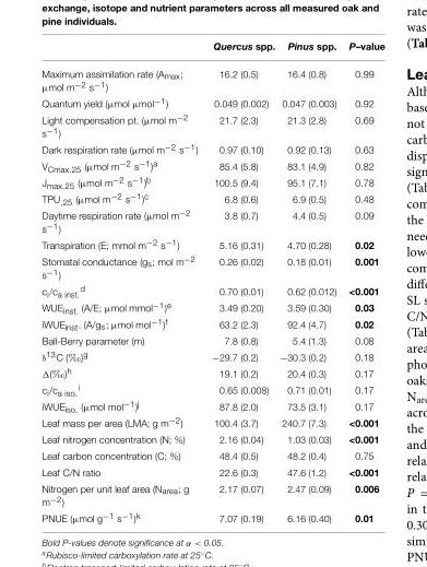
<table><thead><tr><td></td><td>Quercus spp.</td><td>Pinus spp.</td><td>P–value</td></tr></thead><tbody><tr><td>Maximum assimilation rate (A<sub>max</sub>; µmol m<sup>−2</sup> s<sup>−1</sup>)</td><td>16.2 (0.5)</td><td>16.4 (0.8)</td><td>0.99</td></tr><tr><td>Quantum yield (µmol µmol<sup>−1</sup>)</td><td>0.049 (0.002)</td><td>0.047 (0.003)</td><td>0.92</td></tr><tr><td>Light compensation pt. (µmol m<sup>−2</sup> s<sup>−1</sup>)</td><td>21.7 (2.3)</td><td>21.3 (2.8)</td><td>0.69</td></tr><tr><td>Dark respiration rate (µmol m<sup>−2</sup> s<sup>−1</sup>)</td><td>0.97 (0.10)</td><td>0.92 (0.13)</td><td>0.63</td></tr><tr><td>V<sub>Cmax,25</sub> (µmol m<sup>−2</sup> s<sup>−1</sup>)<sup>a</sup></td><td>85.4 (5.8)</td><td>83.1 (4.9)</td><td>0.82</td></tr><tr><td>J<sub>max,25</sub> (µmol m<sup>−2</sup> s<sup>−1</sup>)<sup>b</sup></td><td>100.5 (9.4)</td><td>95.1 (7.1)</td><td>0.78</td></tr><tr><td>TPU<sub>,25</sub> (µmol m<sup>−2</sup> s<sup>−1</sup>)<sup>c</sup></td><td>6.8 (0.6)</td><td>6.9 (0.5)</td><td>0.48</td></tr><tr><td>Daytime respiration rate (µmol m<sup>−2</sup> s<sup>−1</sup>)</td><td>3.8 (0.7)</td><td>4.4 (0.5)</td><td>0.09</td></tr><tr><td>Transpiration (E; mmol m<sup>−2</sup> s<sup>−1</sup>)</td><td>5.16 (0.31)</td><td>4.70 (0.28)</td><td>0.02</td></tr><tr><td>Stomatal conductance (g<sub>s</sub>; mol m<sup>−2</sup> s<sup>−1</sup>)</td><td>0.26 (0.02)</td><td>0.18 (0.01)</td><td>0.001</td></tr><tr><td>c<sub>i</sub>/c<sub>a inst.</sub><sup>d</sup></td><td>0.70 (0.01)</td><td>0.62 (0.012)</td><td>&lt;0.001</td></tr><tr><td>WUE<sub>inst.</sub> (A/E; µmol mmol<sup>−1</sup>)<sup>e</sup></td><td>3.49 (0.20)</td><td>3.59 (0.30)</td><td>0.03</td></tr><tr><td>iWUE<sub>inst</sub>. (A/g<sub>s</sub>; µmol mol<sup>−1</sup>)<sup>f</sup></td><td>63.2 (2.3)</td><td>92.4 (4.7)</td><td>0.02</td></tr><tr><td>Ball-Berry parameter (m)</td><td>7.8 (0.8)</td><td>5.4 (1.3)</td><td>0.08</td></tr><tr><td>δ<sup>13</sup>C (‰)<sup>g</sup></td><td>−29.7 (0.2)</td><td>−30.3 (0.2)</td><td>0.18</td></tr><tr><td>Δ(‰)<sup>h</sup></td><td>19.1 (0.2)</td><td>20.4 (0.3)</td><td>0.17</td></tr><tr><td>c<sub>i</sub>/c<sub>a iso.</sub><sup>i</sup></td><td>0.65 (0.008)</td><td>0.71 (0.01)</td><td>0.17</td></tr><tr><td>iWUE<sub>iso.</sub> (µmol mol<sup>−1</sup>)<sup>j</sup></td><td>87.8 (2.0)</td><td>73.5 (3.1)</td><td>0.17</td></tr><tr><td>Leaf mass per area (LMA; g m<sup>−2</sup>)</td><td>100.4 (3.7)</td><td>240.7 (7.3)</td><td>&lt;0.001</td></tr><tr><td>Leaf nitrogen concentration (N; %)</td><td>2.16 (0.04)</td><td>1.03 (0.03)</td><td>&lt;0.001</td></tr><tr><td>Leaf carbon concentration (C; %)</td><td>48.4 (0.5)</td><td>48.2 (0.4)</td><td>0.75</td></tr><tr><td>Leaf C/N ratio</td><td>22.6 (0.3)</td><td>47.6 (1.2)</td><td>&lt;0.001</td></tr><tr><td>Nitrogen per unit leaf area (N<sub>area</sub>; g m<sup>−2</sup>)</td><td>2.17 (0.07)</td><td>2.47 (0.09)</td><td>0.006</td></tr><tr><td>PNUE (µmol g<sup>−1</sup> s<sup>−1</sup>)<sup>k</sup></td><td>7.07 (0.19)</td><td>6.16 (0.40)</td><td>0.01</td></tr></tbody></table>